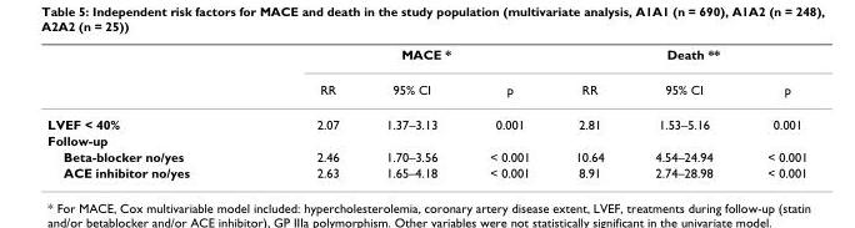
<table><thead><tr><td rowspan="2"></td><td colspan="3">MACE *</td><td colspan="3">Death **</td></tr><tr><td>RR</td><td>95% CI</td><td>p</td><td>RR</td><td>95% CI</td><td>p</td></tr></thead><tbody><tr><td>LVEF &lt; 40%</td><td>2.07</td><td>1.37–3.13</td><td>0.001</td><td>2.81</td><td>1.53–5.16</td><td>0.001</td></tr><tr><td colspan="7">Follow-up</td></tr><tr><td>Beta-blocker no/yes</td><td>2.46</td><td>1.70–3.56</td><td>&lt; 0.001</td><td>10.64</td><td>4.54–24.94</td><td>&lt; 0.001</td></tr><tr><td>ACE inhibitor no/yes</td><td>2.63</td><td>1.65–4.18</td><td>&lt; 0.001</td><td>8.91</td><td>2.74–28.98</td><td>&lt; 0.001</td></tr></tbody></table>